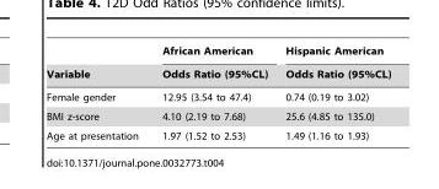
<table><thead><tr><td rowspan="2">Variable</td><td rowspan="2">African American Odds Ratio (95%CL)</td><td rowspan="2">Hispanic American Odds Ratio (95%CL)</td></tr><tr></tr></thead><tbody><tr><td>Female gender</td><td>12.95 (3.54 to 47.4)</td><td>0.74 (0.19 to 3.02)</td></tr><tr><td>BMI z-score</td><td>4.10 (2.19 to 7.68)</td><td>25.6 (4.85 to 135.0)</td></tr><tr><td>Age at presentation</td><td>1.97 (1.52 to 2.53)</td><td>1.49 (1.16 to 1.93)</td></tr></tbody></table>